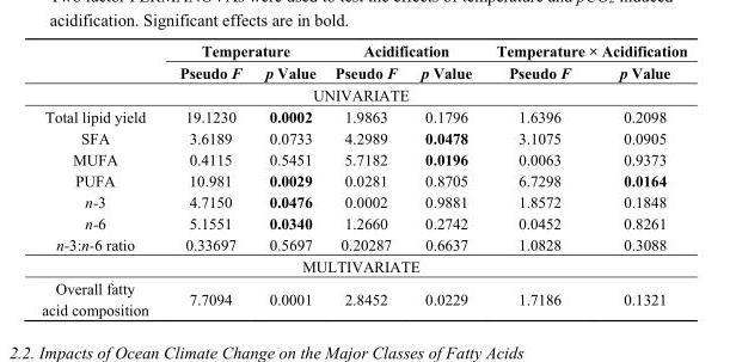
<table><thead><tr><td rowspan="2"></td><td colspan="2">Temperature</td><td colspan="2">Acidification</td><td colspan="2">Temperature × Acidification</td></tr><tr><td>Pseudo F</td><td>p Value</td><td>Pseudo F</td><td>p Value</td><td>Pseudo F</td><td>p Value</td></tr></thead><tbody><tr><td colspan="7">UNIVARIATE</td></tr><tr><td>Total lipid yield</td><td>19.1230</td><td>0.0002</td><td>1.9863</td><td>0.1796</td><td>1.6396</td><td>0.2098</td></tr><tr><td>SFA</td><td>3.6189</td><td>0.0733</td><td>4.2989</td><td>0.0478</td><td>3.1075</td><td>0.0905</td></tr><tr><td>MUFA</td><td>0.4115</td><td>0.5451</td><td>5.7182</td><td>0.0196</td><td>0.0063</td><td>0.9373</td></tr><tr><td>PUFA</td><td>10.981</td><td>0.0029</td><td>0.0281</td><td>0.8705</td><td>6.7298</td><td>0.0164</td></tr><tr><td>n-3</td><td>4.7150</td><td>0.0476</td><td>0.0002</td><td>0.9881</td><td>1.8572</td><td>0.1848</td></tr><tr><td>n-6</td><td>5.1551</td><td>0.0340</td><td>1.2660</td><td>0.2742</td><td>0.0452</td><td>0.8261</td></tr><tr><td>n-3:n-6 ratio</td><td>0.33697</td><td>0.5697</td><td>0.20287</td><td>0.6637</td><td>1.0828</td><td>0.3088</td></tr><tr><td colspan="7">MULTIVARIATE</td></tr><tr><td>Overall fatty acid composition</td><td>7.7094</td><td>0.0001</td><td>2.8452</td><td>0.0229</td><td>1.7186</td><td>0.1321</td></tr></tbody></table>